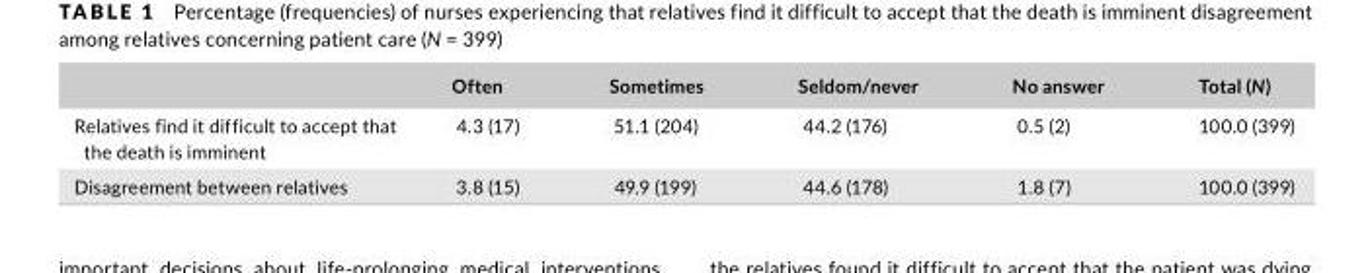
<table><thead><tr><td></td><td>Often</td><td>Sometimes</td><td>Seldom/never</td><td>No answer</td><td>Total (N)</td></tr></thead><tbody><tr><td>Relatives find it difficult to accept that the death is imminent</td><td>4.3 (17)</td><td>51.1 (204)</td><td>44.2 (176)</td><td>0.5 (2)</td><td>100.0 (399)</td></tr><tr><td>Disagreement between relatives</td><td>3.8 (15)</td><td>49.9 (199)</td><td>44.6 (178)</td><td>1.8 (7)</td><td>100.0 (399)</td></tr></tbody></table>